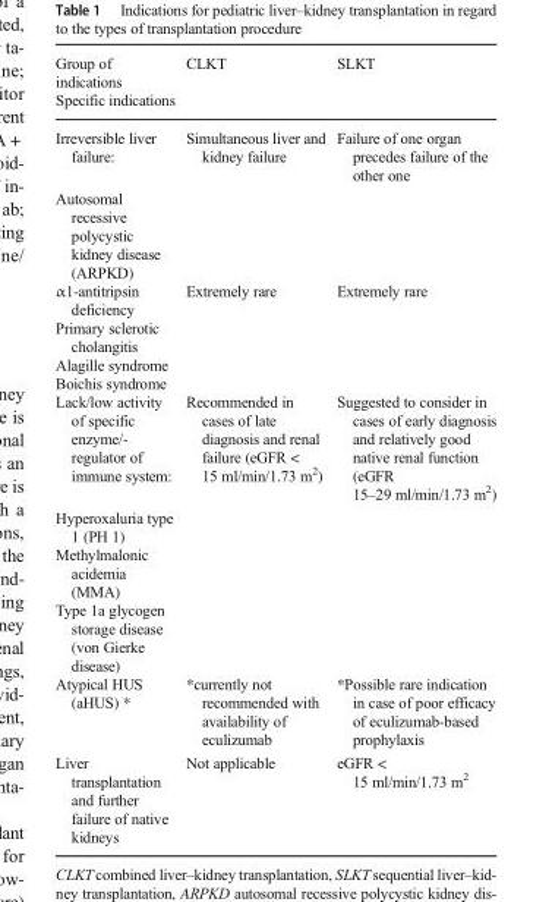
<table><thead><tr><td>Group of indications Specific indications</td><td>CLKT</td><td>SLKT</td></tr></thead><tbody><tr><td>Irreversible liver failure:</td><td>Simultaneous liver and kidney failure</td><td>Failure of one organ precedes failure of the other one</td></tr><tr><td colspan="3">Autosomal recessive polycystic kidney disease (ARPKD)</td></tr><tr><td>α1-antitripsin deficiency</td><td>Extremely rare</td><td>Extremely rare</td></tr><tr><td colspan="3">Primary sclerotic cholangitis Alagille syndrome Boichis syndrome</td></tr><tr><td>Lack/low activity of specific enzyme/- regulator of immune system:</td><td>Recommended in cases of late diagnosis and renal failure (eGFR &lt; 15 ml/min/1.73 m<sup>2</sup>)</td><td>Suggested to consider in cases of early diagnosis and relatively good native renal function (eGFR 15–29 ml/min/1.73 m<sup>2</sup>)</td></tr><tr><td colspan="3">Hyperoxaluria type 1 (PH 1) Methylmalonic acidemia (MMA) Type 1a glycogen storage disease (von Gierke disease)</td></tr><tr><td>Atypical HUS (aHUS) *</td><td>*currently not recommended with availability of eculizumab</td><td>*Possible rare indication in case of poor efficacy of eculizumab-based prophylaxis</td></tr><tr><td>Liver transplantation and further failure of native kidneys</td><td>Not applicable</td><td>eGFR &lt; 15 ml/min/1.73 m<sup>2</sup></td></tr></tbody></table>